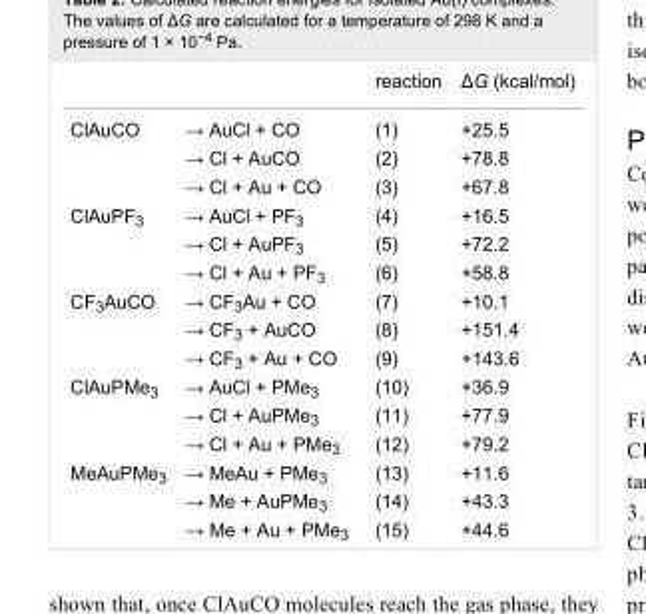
<table><thead><tr><td></td><td></td><td>reaction</td><td>ΔG (kcal/mol)</td></tr></thead><tbody><tr><td rowspan="3">ClAuCO</td><td>→ AuCl + CO</td><td>(1)</td><td>+25.5</td></tr><tr><td>→ Cl + AuCO</td><td>(2)</td><td>+78.8</td></tr><tr><td>→ Cl + Au + CO</td><td>(3)</td><td>+67.8</td></tr><tr><td rowspan="3">ClAuPF<sub>3</sub></td><td>→ AuCl + PF<sub>3</sub></td><td>(4)</td><td>+16.5</td></tr><tr><td>→ Cl + AuPF<sub>3</sub></td><td>(5)</td><td>+72.2</td></tr><tr><td>→ Cl + Au + PF<sub>3</sub></td><td>(6)</td><td>+58.8</td></tr><tr><td rowspan="3">CF<sub>3</sub>AuCO</td><td>→ CF<sub>3</sub>Au + CO</td><td>(7)</td><td>+10.1</td></tr><tr><td>→ CF<sub>3</sub> + AuCO</td><td>(8)</td><td>+151.4</td></tr><tr><td>→ CF<sub>3</sub> + Au + CO</td><td>(9)</td><td>+143.6</td></tr><tr><td rowspan="3">ClAuPMe<sub>3</sub></td><td>→ AuCl + PMe<sub>3</sub></td><td>(10)</td><td>+36.9</td></tr><tr><td>→ Cl + AuPMe<sub>3</sub></td><td>(11)</td><td>+77.9</td></tr><tr><td>→ Cl + Au + PMe<sub>3</sub></td><td>(12)</td><td>+79.2</td></tr><tr><td rowspan="3">MeAuPMe<sub>3</sub></td><td>→ MeAu + PMe<sub>3</sub></td><td>(13)</td><td>+11.6</td></tr><tr><td>→ Me + AuPMe<sub>3</sub></td><td>(14)</td><td>+43.3</td></tr><tr><td>→ Me + Au + PMe<sub>3</sub></td><td>(15)</td><td>+44.6</td></tr></tbody></table>